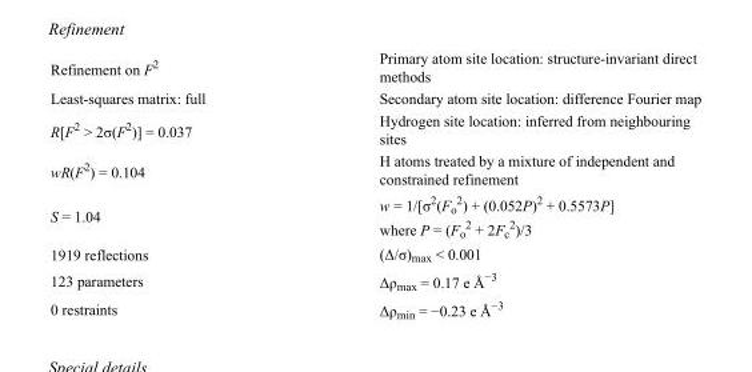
<table><tbody><tr><td>Refinement on F<sup>2</sup></td><td>Primary atom site location: structure-invariant direct methods</td></tr><tr><td>Least-squares matrix: full</td><td>Secondary atom site location: difference Fourier map</td></tr><tr><td>R[F<sup>2</sup> &gt; 2σ(F<sup>2</sup>)] = 0.037</td><td>Hydrogen site location: inferred from neighbouring sites</td></tr><tr><td>wR(F<sup>2</sup>) = 0.104</td><td>H atoms treated by a mixture of independent and constrained refinement</td></tr><tr><td>S = 1.04</td><td>w = 1/[σ<sup>2</sup>(F<sub>o</sub> <sup>2</sup>) + (0.052P)<sup>2</sup> + 0.5573P] where P = (F<sub>o</sub> <sup>2</sup> + 2F<sub>c</sub> <sup>2</sup>)/3</td></tr><tr><td>1919 reflections</td><td>(Δ/σ)<sub>max</sub> &lt; 0.001</td></tr><tr><td>123 parameters</td><td>Δρ<sub>max</sub> = 0.17 e Å<sup>−3</sup></td></tr><tr><td>0 restraints</td><td>Δρ<sub>min</sub> = −0.23 e Å<sup>−3</sup></td></tr></tbody></table>